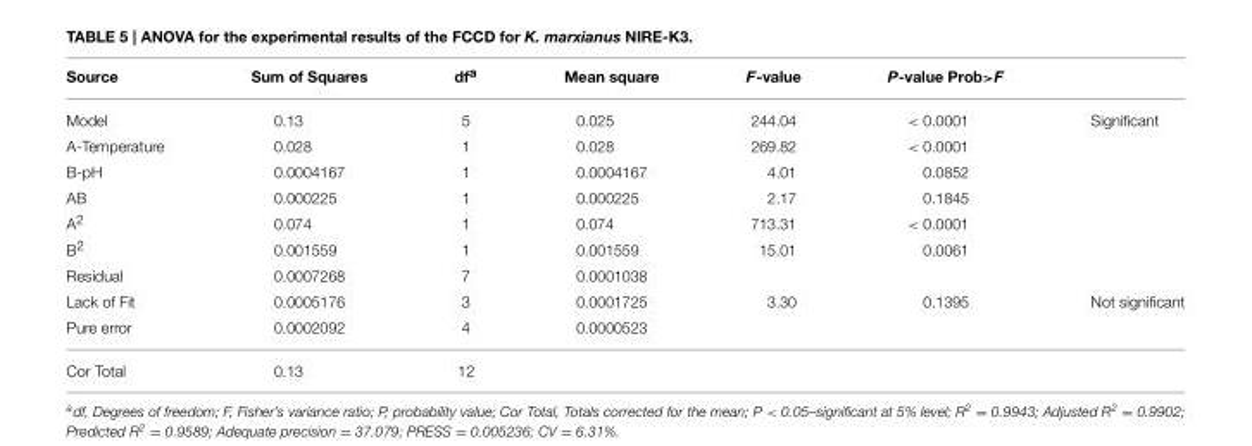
<table><thead><tr><td>Source</td><td>Sum of Squares</td><td>df<sup>a</sup></td><td>Mean square</td><td>F-value</td><td>P-value Prob&gt;F</td><td></td></tr></thead><tbody><tr><td>Model</td><td>0.13</td><td>5</td><td>0.025</td><td>244.04</td><td>&lt; 0.0001</td><td>Significant</td></tr><tr><td>A-Temperature</td><td>0.028</td><td>1</td><td>0.028</td><td>269.82</td><td>&lt; 0.0001</td><td></td></tr><tr><td>B-pH</td><td>0.0004167</td><td>1</td><td>0.0004167</td><td>4.01</td><td>0.0852</td><td></td></tr><tr><td>AB</td><td>0.000225</td><td>1</td><td>0.000225</td><td>2.17</td><td>0.1845</td><td></td></tr><tr><td>A<sup>2</sup></td><td>0.074</td><td>1</td><td>0.074</td><td>713.31</td><td>&lt; 0.0001</td><td></td></tr><tr><td>B<sup>2</sup></td><td>0.001559</td><td>1</td><td>0.001559</td><td>15.01</td><td>0.0061</td><td></td></tr><tr><td>Residual</td><td>0.0007268</td><td>7</td><td>0.0001038</td><td></td><td></td><td></td></tr><tr><td>Lack of Fit</td><td>0.0005176</td><td>3</td><td>0.0001725</td><td>3.30</td><td>0.1395</td><td>Not significant</td></tr><tr><td>Pure error</td><td>0.0002092</td><td>4</td><td>0.0000523</td><td></td><td></td><td></td></tr><tr><td>Cor Total</td><td>0.13</td><td>12</td><td></td><td></td><td></td><td></td></tr></tbody></table>